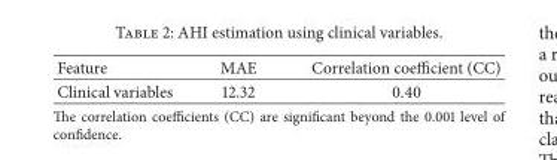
<table><thead><tr><td>Feature</td><td>MAE</td><td>Correlation coefficient (CC)</td></tr></thead><tbody><tr><td>Clinical variables</td><td>12.32</td><td>0.40</td></tr></tbody></table>